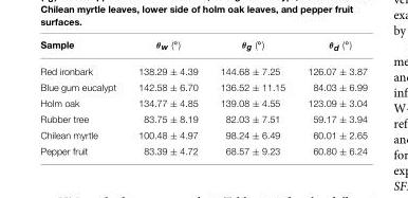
<table><thead><tr><td>Sample</td><td>θw (◦)</td><td>θg (◦)</td><td>θd (◦)</td></tr></thead><tbody><tr><td>Red ironbark</td><td>138.29 ± 4.39</td><td>144.68 ± 7.25</td><td>126.07 ± 3.87</td></tr><tr><td>Blue gum eucalypt</td><td>142.58 ± 6.70</td><td>136.52 ± 11.15</td><td>84.03 ± 6.99</td></tr><tr><td>Holm oak</td><td>134.77 ± 4.85</td><td>139.08 ± 4.55</td><td>123.09 ± 3.04</td></tr><tr><td>Rubber tree</td><td>83.75 ± 8.19</td><td>82.03 ± 7.51</td><td>59.17 ± 3.94</td></tr><tr><td>Chilean myrtle</td><td>100.48 ± 4.97</td><td>98.24 ± 6.49</td><td>60.01 ± 2.65</td></tr><tr><td>Pepper fruit</td><td>83.39 ± 4.72</td><td>68.57 ± 9.23</td><td>60.80 ± 6.24</td></tr></tbody></table>